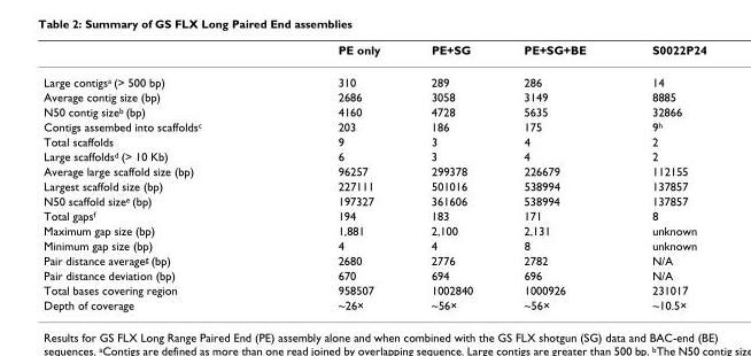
<table><thead><tr><td></td><td>PE only</td><td>PE+SG</td><td>PE+SG+BE</td><td>S0022P24</td></tr></thead><tbody><tr><td>Large contigs<sup>a</sup> (&gt; 500 bp)</td><td>310</td><td>289</td><td>286</td><td>14</td></tr><tr><td>Average contig size (bp)</td><td>2686</td><td>3058</td><td>3149</td><td>8885</td></tr><tr><td>N50 contig size<sup>b</sup> (bp)</td><td>4160</td><td>4728</td><td>5635</td><td>32866</td></tr><tr><td>Contigs assembed into scaffolds<sup>c</sup></td><td>203</td><td>186</td><td>175</td><td>9<sup>h</sup></td></tr><tr><td>Total scaffolds</td><td>9</td><td>3</td><td>4</td><td>2</td></tr><tr><td>Large scaffolds<sup>d</sup> (&gt; 10 Kb)</td><td>6</td><td>3</td><td>4</td><td>2</td></tr><tr><td>Average large scaffold size (bp)</td><td>96257</td><td>299378</td><td>226679</td><td>112155</td></tr><tr><td>Largest scaffold size (bp)</td><td>227111</td><td>501016</td><td>538994</td><td>137857</td></tr><tr><td>N50 scaffold size<sup>e</sup> (bp)</td><td>197327</td><td>361606</td><td>538994</td><td>137857</td></tr><tr><td>Total gaps<sup>f</sup></td><td>194</td><td>183</td><td>171</td><td>8</td></tr><tr><td>Maximum gap size (bp)</td><td>1,881</td><td>2,100</td><td>2,131</td><td>unknown</td></tr><tr><td>Minimum gap size (bp)</td><td>4</td><td>4</td><td>8</td><td>unknown</td></tr><tr><td>Pair distance average<sup>g</sup> (bp)</td><td>2680</td><td>2776</td><td>2782</td><td>N/A</td></tr><tr><td>Pair distance deviation (bp)</td><td>670</td><td>694</td><td>696</td><td>N/A</td></tr><tr><td>Total bases covering region</td><td>958507</td><td>1002840</td><td>1000926</td><td>231017</td></tr><tr><td>Depth of coverage</td><td>~26×</td><td>~56×</td><td>~56×</td><td>~10.5×</td></tr></tbody></table>